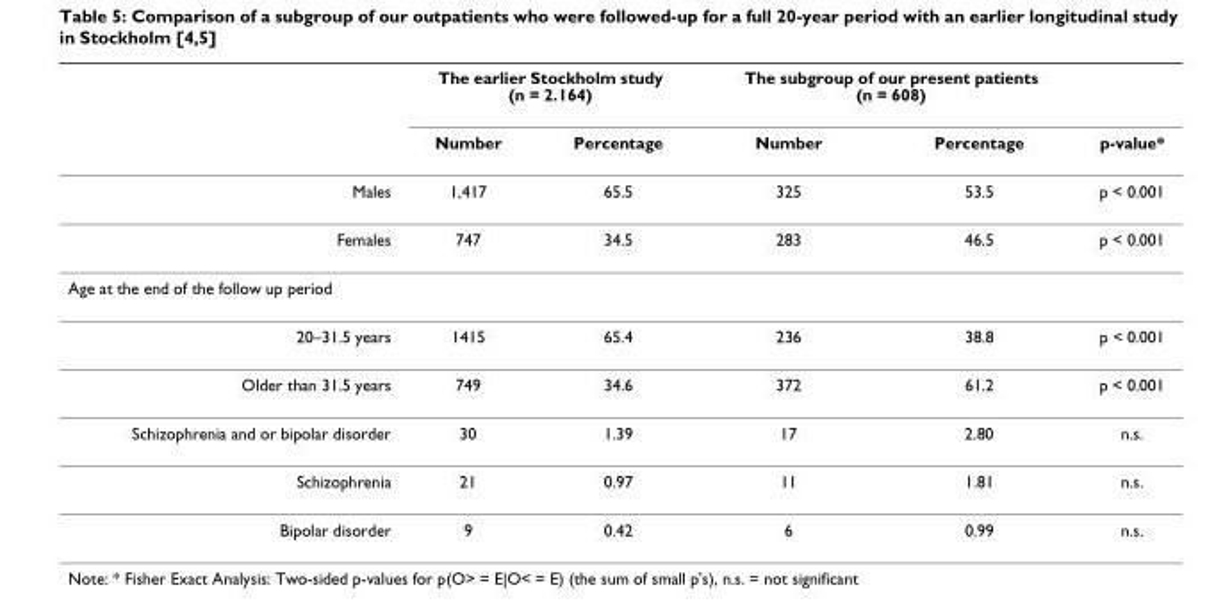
<table><thead><tr><td rowspan="2"></td><td colspan="2">The earlier Stockholm study (n = 2.164)</td><td colspan="2">The subgroup of our present patients (n = 608)</td><td rowspan="2">p-value*</td></tr><tr><td>Number</td><td>Percentage</td><td>Number</td><td>Percentage</td></tr></thead><tbody><tr><td>Males</td><td>1,417</td><td>65.5</td><td>325</td><td>53.5</td><td>p &lt; 0.001</td></tr><tr><td>Females</td><td>747</td><td>34.5</td><td>283</td><td>46.5</td><td>p &lt; 0.001</td></tr><tr><td colspan="6">Age at the end of the follow up period</td></tr><tr><td>20–31.5 years</td><td>1415</td><td>65.4</td><td>236</td><td>38.8</td><td>p &lt; 0.001</td></tr><tr><td>Older than 31.5 years</td><td>749</td><td>34.6</td><td>372</td><td>61.2</td><td>p &lt; 0.001</td></tr><tr><td>Schizophrenia and or bipolar disorder</td><td>30</td><td>1.39</td><td>17</td><td>2.80</td><td>n.s.</td></tr><tr><td>Schizophrenia</td><td>21</td><td>0.97</td><td>11</td><td>1.81</td><td>n.s.</td></tr><tr><td>Bipolar disorder</td><td>9</td><td>0.42</td><td>6</td><td>0.99</td><td>n.s.</td></tr></tbody></table>